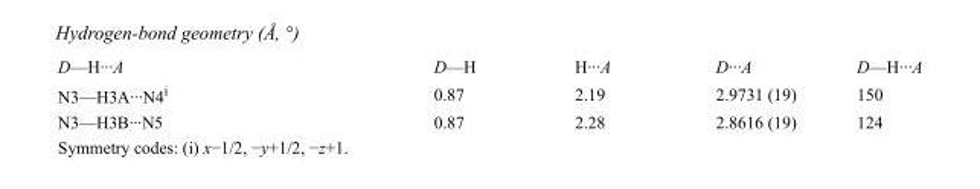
<table><tbody><tr><td>D—H···A</td><td>D—H</td><td>H···A</td><td>D···A</td><td>D—H···A</td></tr><tr><td>N3—H3A···N4<sup>i</sup></td><td>0.87</td><td>2.19</td><td>2.9731 (19)</td><td>150</td></tr><tr><td>N3—H3B···N5</td><td>0.87</td><td>2.28</td><td>2.8616 (19)</td><td>124</td></tr></tbody></table>